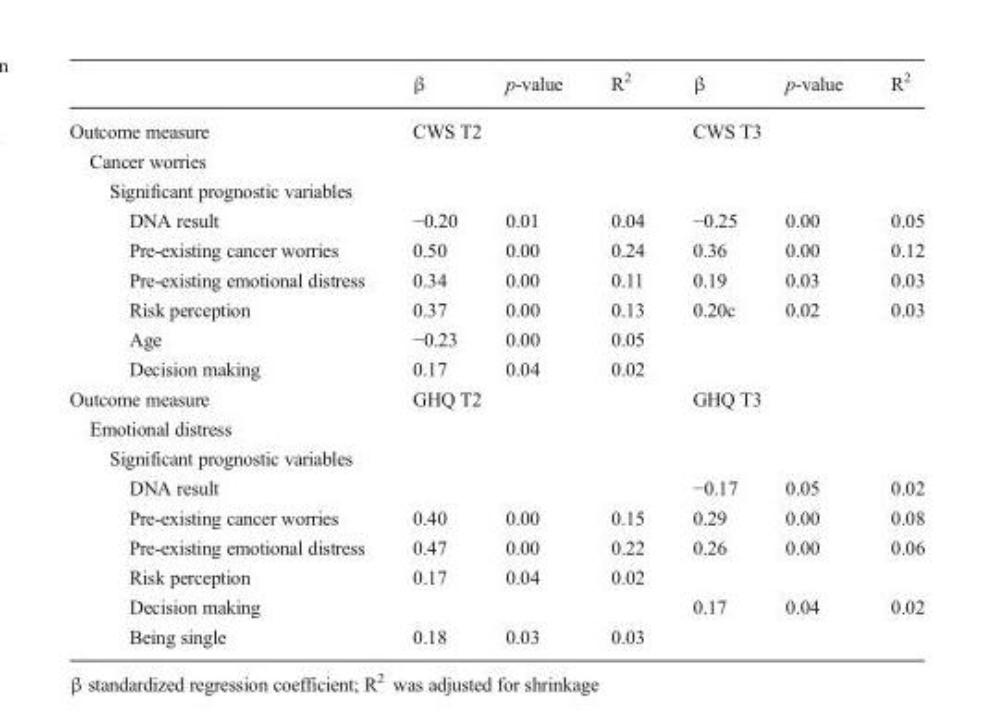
<table><thead><tr><td></td><td>β</td><td>p-value</td><td>R<sup>2</sup></td><td>β</td><td>p-value</td><td>R<sup>2</sup></td></tr></thead><tbody><tr><td>Outcome measure</td><td colspan="3">CWS T2</td><td colspan="3">CWS T3</td></tr><tr><td colspan="7">Cancer worries</td></tr><tr><td colspan="7">Significant prognostic variables</td></tr><tr><td>DNA result</td><td>−0.20</td><td>0.01</td><td>0.04</td><td>−0.25</td><td>0.00</td><td>0.05</td></tr><tr><td>Pre-existing cancer worries</td><td>0.50</td><td>0.00</td><td>0.24</td><td>0.36</td><td>0.00</td><td>0.12</td></tr><tr><td>Pre-existing emotional distress</td><td>0.34</td><td>0.00</td><td>0.11</td><td>0.19</td><td>0.03</td><td>0.03</td></tr><tr><td>Risk perception</td><td>0.37</td><td>0.00</td><td>0.13</td><td>0.20c</td><td>0.02</td><td>0.03</td></tr><tr><td>Age</td><td>−0.23</td><td>0.00</td><td>0.05</td><td></td><td></td><td></td></tr><tr><td>Decision making</td><td>0.17</td><td>0.04</td><td>0.02</td><td></td><td></td><td></td></tr><tr><td>Outcome measure</td><td colspan="3">GHQ T2</td><td colspan="3">GHQ T3</td></tr><tr><td colspan="7">Emotional distress</td></tr><tr><td colspan="7">Significant prognostic variables</td></tr><tr><td>DNA result</td><td></td><td></td><td></td><td>−0.17</td><td>0.05</td><td>0.02</td></tr><tr><td>Pre-existing cancer worries</td><td>0.40</td><td>0.00</td><td>0.15</td><td>0.29</td><td>0.00</td><td>0.08</td></tr><tr><td>Pre-existing emotional distress</td><td>0.47</td><td>0.00</td><td>0.22</td><td>0.26</td><td>0.00</td><td>0.06</td></tr><tr><td>Risk perception</td><td>0.17</td><td>0.04</td><td>0.02</td><td></td><td></td><td></td></tr><tr><td>Decision making</td><td></td><td></td><td></td><td>0.17</td><td>0.04</td><td>0.02</td></tr><tr><td>Being single</td><td>0.18</td><td>0.03</td><td>0.03</td><td></td><td></td><td></td></tr></tbody></table>